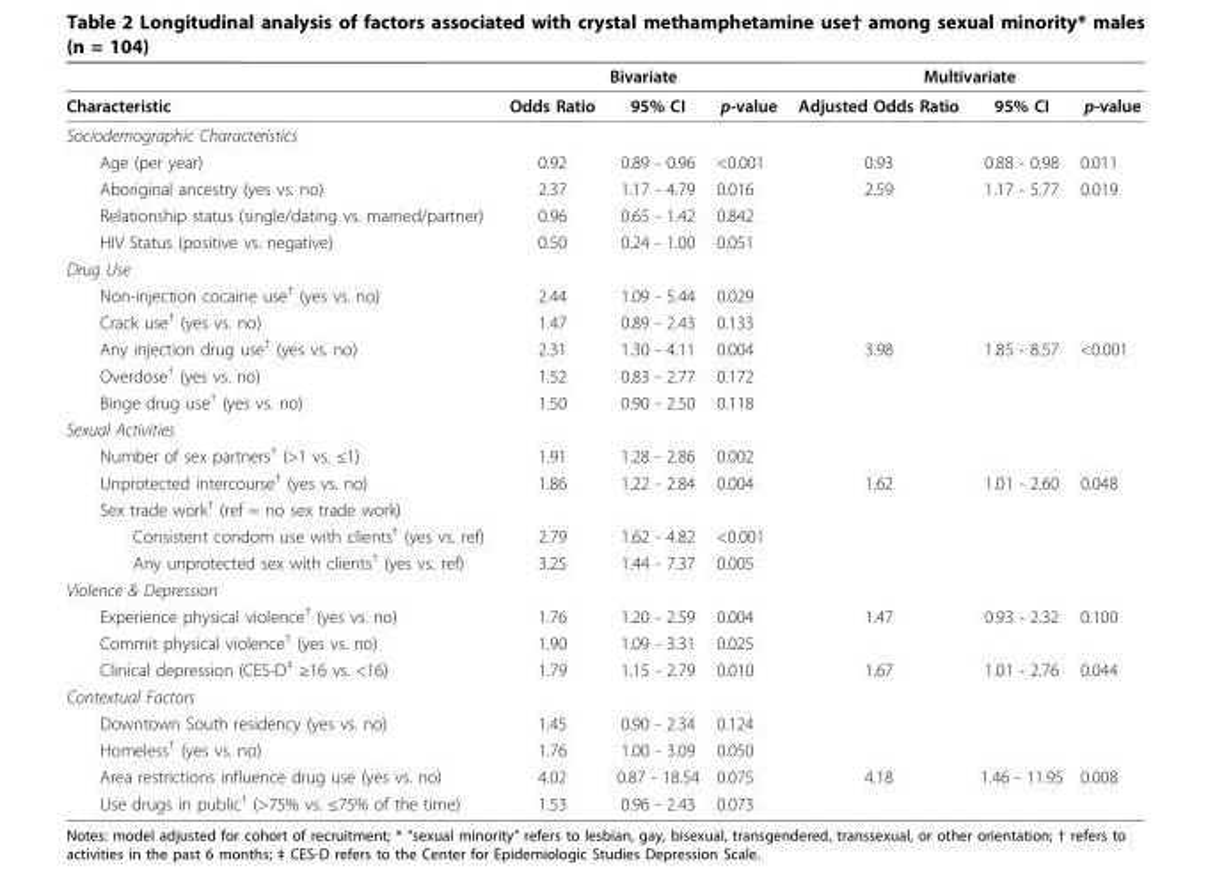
<table><thead><tr><td rowspan="2">Characteristic</td><td colspan="3">Bivariate</td><td colspan="3">Multivariate</td></tr><tr><td>Odds Ratio</td><td>95% CI</td><td>p-value</td><td>Adjusted Odds Ratio</td><td>95% CI</td><td>p-value</td></tr></thead><tbody><tr><td colspan="7">Sociodemographic Characteristics</td></tr><tr><td>Age (per year)</td><td>0.92</td><td>0.89 - 0.96</td><td>&lt;0.001</td><td>0.93</td><td>0.88 - 0.98</td><td>0.011</td></tr><tr><td>Aboriginal ancestry (yes vs. no)</td><td>2.37</td><td>1.17 - 4.79</td><td>0.016</td><td>2.59</td><td>1.17 - 5.77</td><td>0.019</td></tr><tr><td>Relationship status (single/dating vs. married/partner)</td><td>0.96</td><td>0.65 - 1.42</td><td>0.842</td><td></td><td></td><td></td></tr><tr><td>HIV Status (positive vs. negative)</td><td>0.50</td><td>0.24 - 1.00</td><td>0.051</td><td></td><td></td><td></td></tr><tr><td colspan="7">Drug Use</td></tr><tr><td>Non-injection cocaine use<sup>†</sup> (yes vs. no)</td><td>2.44</td><td>1.09 - 5.44</td><td>0.029</td><td></td><td></td><td></td></tr><tr><td>Crack use<sup>†</sup> (yes vs. no)</td><td>1.47</td><td>0.89 - 2.43</td><td>0.133</td><td></td><td></td><td></td></tr><tr><td>Any injection drug use<sup>†</sup> (yes vs. no)</td><td>2.31</td><td>1.30 - 4.11</td><td>0.004</td><td>3.98</td><td>1.85 - 8.57</td><td>&lt;0.001</td></tr><tr><td>Overdose<sup>†</sup> (yes vs. no)</td><td>1.52</td><td>0.83 - 2.77</td><td>0.172</td><td></td><td></td><td></td></tr><tr><td>Binge drug use<sup>†</sup> (yes vs. no)</td><td>1.50</td><td>0.90 - 2.50</td><td>0.118</td><td></td><td></td><td></td></tr><tr><td colspan="7">Sexual Activities</td></tr><tr><td>Number of sex partners<sup>†</sup> (&gt;1 vs. ≤1)</td><td>1.91</td><td>1.28 - 2.86</td><td>0.002</td><td></td><td></td><td></td></tr><tr><td>Unprotected intercourse<sup>†</sup> (yes vs. no)</td><td>1.86</td><td>1.22 - 2.84</td><td>0.004</td><td>1.62</td><td>1.01 - 2.60</td><td>0.048</td></tr><tr><td colspan="7">Sex trade work<sup>†</sup> (ref = no sex trade work)</td></tr><tr><td>Consistent condom use with clients<sup>†</sup> (yes vs. ref)</td><td>2.79</td><td>1.62 - 4.82</td><td>&lt;0.001</td><td></td><td></td><td></td></tr><tr><td>Any unprotected sex with clients<sup>†</sup> (yes vs. ref)</td><td>3.25</td><td>1.44 - 7.37</td><td>0.005</td><td></td><td></td><td></td></tr><tr><td colspan="7">Violence &amp; Depression</td></tr><tr><td>Experience physical violence<sup>†</sup> (yes vs. no)</td><td>1.76</td><td>1.20 - 2.59</td><td>0.004</td><td>1.47</td><td>0.93 - 2.32</td><td>0.100</td></tr><tr><td>Commit physical violence<sup>†</sup> (yes vs. no)</td><td>1.90</td><td>1.09 - 3.31</td><td>0.025</td><td></td><td></td><td></td></tr><tr><td>Clinical depression (CES-D<sup>‡</sup> ≥16 vs. &lt;16)</td><td>1.79</td><td>1.15 - 2.79</td><td>0.010</td><td>1.67</td><td>1.01 - 2.76</td><td>0.044</td></tr><tr><td colspan="7">Contextual Factors</td></tr><tr><td>Downtown South residency (yes vs. no)</td><td>1.45</td><td>0.90 - 2.34</td><td>0.124</td><td></td><td></td><td></td></tr><tr><td>Homeless<sup>†</sup> (yes vs. no)</td><td>1.76</td><td>1.00 - 3.09</td><td>0.050</td><td></td><td></td><td></td></tr><tr><td>Area restrictions influence drug use (yes vs. no)</td><td>4.02</td><td>0.87 - 18.54</td><td>0.075</td><td>4.18</td><td>1.46 - 11.95</td><td>0.008</td></tr><tr><td>Use drugs in public<sup>†</sup> (&gt;75% vs. ≤75% of the time)</td><td>1.53</td><td>0.96 - 2.43</td><td>0.073</td><td></td><td></td><td></td></tr></tbody></table>